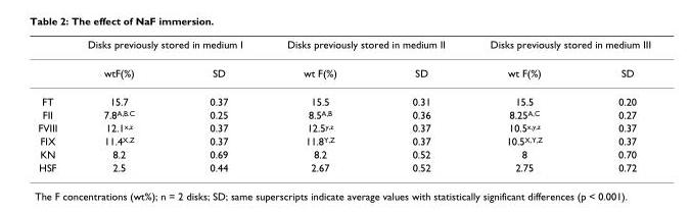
<table><thead><tr><td rowspan="2"></td><td colspan="2">Disks previously stored in medium I</td><td colspan="2">Disks previously stored in medium II</td><td colspan="2">Disks previously stored in medium III</td></tr><tr><td>wtF(%)</td><td>SD</td><td>wt F(%)</td><td>SD</td><td>wt F(%)</td><td>SD</td></tr></thead><tbody><tr><td>FT</td><td>15.7</td><td>0.37</td><td>15.5</td><td>0.31</td><td>15.5</td><td>0.20</td></tr><tr><td>FII</td><td>7.8<sup>A,B.C</sup></td><td>0.25</td><td>8.5<sup>A,B</sup></td><td>0.36</td><td>8.25<sup>A,C</sup></td><td>0.27</td></tr><tr><td>FVIII</td><td>12.1<sup>x,z</sup></td><td>0.37</td><td>12.5<sup>y,z</sup></td><td>0.37</td><td>10.5<sup>x,y,z</sup></td><td>0.37</td></tr><tr><td>FIX</td><td>11.4<sup>X,Z</sup></td><td>0.37</td><td>11.8<sup>Y,Z</sup></td><td>0.37</td><td>10.5<sup>X,Y,Z</sup></td><td>0.37</td></tr><tr><td>KN</td><td>8.2</td><td>0.69</td><td>8.2</td><td>0.52</td><td>8</td><td>0.70</td></tr><tr><td>HSF</td><td>2.5</td><td>0.44</td><td>2.67</td><td>0.52</td><td>2.75</td><td>0.72</td></tr></tbody></table>